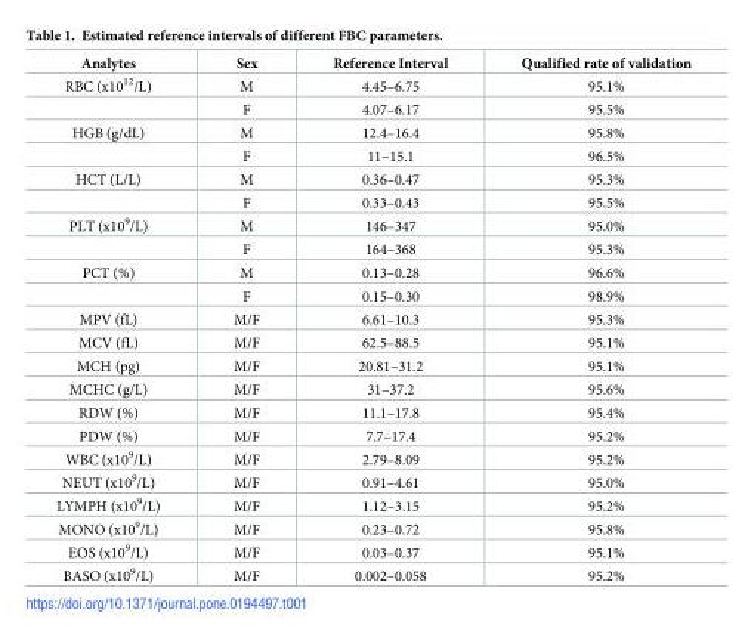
<table><thead><tr><td>Analytes</td><td>Sex</td><td>Reference Interval</td><td>Qualified rate of validation</td></tr></thead><tbody><tr><td rowspan="2">RBC (x10<sup>12</sup>/L)</td><td>M</td><td>4.45–6.75</td><td>95.1%</td></tr><tr><td>F</td><td>4.07–6.17</td><td>95.5%</td></tr><tr><td rowspan="2">HGB (g/dL)</td><td>M</td><td>12.4–16.4</td><td>95.8%</td></tr><tr><td>F</td><td>11–15.1</td><td>96.5%</td></tr><tr><td rowspan="2">HCT (L/L)</td><td>M</td><td>0.36–0.47</td><td>95.3%</td></tr><tr><td>F</td><td>0.33–0.43</td><td>95.5%</td></tr><tr><td rowspan="2">PLT (x10<sup>9</sup>/L)</td><td>M</td><td>146–347</td><td>95.0%</td></tr><tr><td>F</td><td>164–368</td><td>95.3%</td></tr><tr><td rowspan="2">PCT (%)</td><td>M</td><td>0.13–0.28</td><td>96.6%</td></tr><tr><td>F</td><td>0.15–0.30</td><td>98.9%</td></tr><tr><td>MPV (fL)</td><td>M/F</td><td>6.61–10.3</td><td>95.3%</td></tr><tr><td>MCV (fL)</td><td>M/F</td><td>62.5–88.5</td><td>95.1%</td></tr><tr><td>MCH (pg)</td><td>M/F</td><td>20.81–31.2</td><td>95.1%</td></tr><tr><td>MCHC (g/L)</td><td>M/F</td><td>31–37.2</td><td>95.6%</td></tr><tr><td>RDW (%)</td><td>M/F</td><td>11.1–17.8</td><td>95.4%</td></tr><tr><td>PDW (%)</td><td>M/F</td><td>7.7–17.4</td><td>95.2%</td></tr><tr><td>WBC (x10<sup>9</sup>/L)</td><td>M/F</td><td>2.79–8.09</td><td>95.2%</td></tr><tr><td>NEUT (x10<sup>9</sup>/L)</td><td>M/F</td><td>0.91–4.61</td><td>95.0%</td></tr><tr><td>LYMPH (x10<sup>9</sup>/L)</td><td>M/F</td><td>1.12–3.15</td><td>95.2%</td></tr><tr><td>MONO (x10<sup>9</sup>/L)</td><td>M/F</td><td>0.23–0.72</td><td>95.8%</td></tr><tr><td>EOS (x10<sup>9</sup>/L)</td><td>M/F</td><td>0.03–0.37</td><td>95.1%</td></tr><tr><td>BASO (x10<sup>9</sup>/L)</td><td>M/F</td><td>0.002–0.058</td><td>95.2%</td></tr></tbody></table>